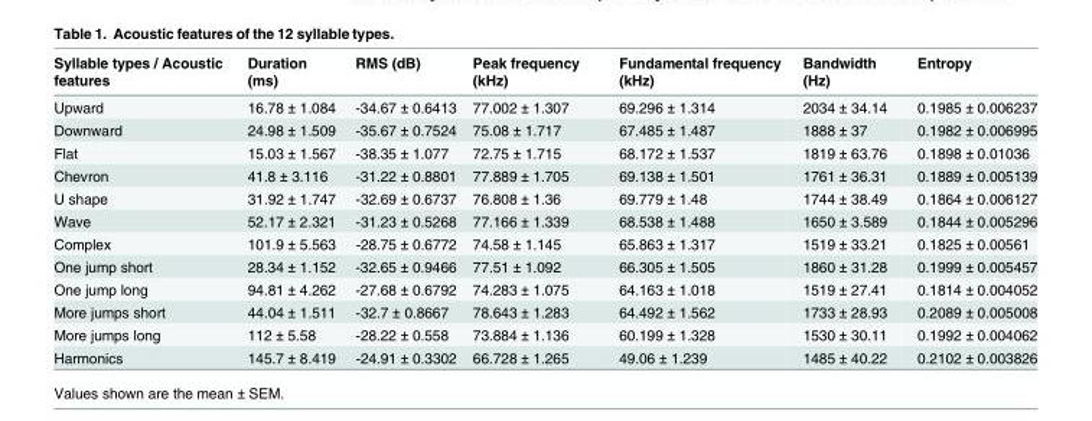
<table><thead><tr><td>Syllable types / Acoustic features</td><td>Duration (ms)</td><td>RMS (dB)</td><td>Peak frequency (kHz)</td><td>Fundamental frequency (kHz)</td><td>Bandwidth (Hz)</td><td>Entropy</td></tr></thead><tbody><tr><td>Upward</td><td>16.78 ± 1.084</td><td>-34.67 ± 0.6413</td><td>77.002 ± 1.307</td><td>69.296 ± 1.314</td><td>2034 ± 34.14</td><td>0.1985 ± 0.006237</td></tr><tr><td>Downward</td><td>24.98 ± 1.509</td><td>-35.67 ± 0.7524</td><td>75.08 ± 1.717</td><td>67.485 ± 1.487</td><td>1888 ± 37</td><td>0.1982 ± 0.006995</td></tr><tr><td>Flat</td><td>15.03 ± 1.567</td><td>-38.35 ± 1.077</td><td>72.75 ± 1.715</td><td>68.172 ± 1.537</td><td>1819 ± 63.76</td><td>0.1898 ± 0.01036</td></tr><tr><td>Chevron</td><td>41.8 ± 3.116</td><td>-31.22 ± 0.8801</td><td>77.889 ± 1.705</td><td>69.138 ± 1.501</td><td>1761 ± 36.31</td><td>0.1889 ± 0.005139</td></tr><tr><td>U shape</td><td>31.92 ± 1.747</td><td>-32.69 ± 0.6737</td><td>76.808 ± 1.36</td><td>69.779 ± 1.48</td><td>1744 ± 38.49</td><td>0.1864 ± 0.006127</td></tr><tr><td>Wave</td><td>52.17 ± 2.321</td><td>-31.23 ± 0.5268</td><td>77.166 ± 1.339</td><td>68.538 ± 1.488</td><td>1650 ± 3.589</td><td>0.1844 ± 0.005296</td></tr><tr><td>Complex</td><td>101.9 ± 5.563</td><td>-28.75 ± 0.6772</td><td>74.58 ± 1.145</td><td>65.863 ± 1.317</td><td>1519 ± 33.21</td><td>0.1825 ± 0.00561</td></tr><tr><td>One jump short</td><td>28.34 ± 1.152</td><td>-32.65 ± 0.9466</td><td>77.51 ± 1.092</td><td>66.305 ± 1.505</td><td>1860 ± 31.28</td><td>0.1999 ± 0.005457</td></tr><tr><td>One jump long</td><td>94.81 ± 4.262</td><td>-27.68 ± 0.6792</td><td>74.283 ± 1.075</td><td>64.163 ± 1.018</td><td>1519 ± 27.41</td><td>0.1814 ± 0.004052</td></tr><tr><td>More jumps short</td><td>44.04 ± 1.511</td><td>-32.7 ± 0.8667</td><td>78.643 ± 1.283</td><td>64.492 ± 1.562</td><td>1733 ± 28.93</td><td>0.2089 ± 0.005008</td></tr><tr><td>More jumps long</td><td>112 ± 5.58</td><td>-28.22 ± 0.558</td><td>73.884 ± 1.136</td><td>60.199 ± 1.328</td><td>1530 ± 30.11</td><td>0.1992 ± 0.004062</td></tr><tr><td>Harmonics</td><td>145.7 ± 8.419</td><td>-24.91 ± 0.3302</td><td>66.728 ± 1.265</td><td>49.06 ± 1.239</td><td>1485 ± 40.22</td><td>0.2102 ± 0.003826</td></tr></tbody></table>